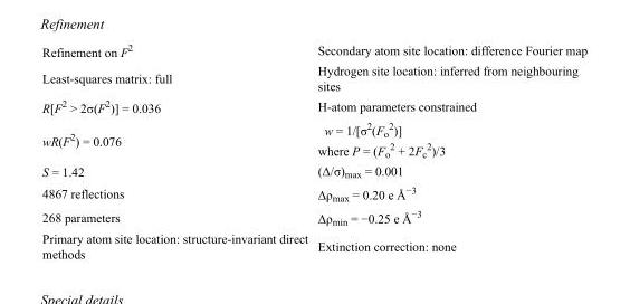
<table><tbody><tr><td>Refinement on F<sup>2</sup></td><td>Secondary atom site location: difference Fourier map</td></tr><tr><td>Least-squares matrix: full</td><td>Hydrogen site location: inferred from neighbouring sites</td></tr><tr><td>R[F<sup>2</sup> &gt; 2σ(F<sup>2</sup>)] = 0.036</td><td>H-atom parameters constrained</td></tr><tr><td>wR(F<sup>2</sup>) = 0.076</td><td>w = 1/[σ<sup>2</sup>(F<sub>o</sub> <sup>2</sup>)] where P = (F<sub>o</sub> <sup>2</sup> + 2F<sub>c</sub> <sup>2</sup>)/3</td></tr><tr><td>S = 1.42</td><td>(Δ/σ)<sub>max</sub> = 0.001</td></tr><tr><td>4867 reflections</td><td>Δρ<sub>max</sub> = 0.20 e Å<sup>−3</sup></td></tr><tr><td>268 parameters</td><td>Δρ<sub>min</sub> = −0.25 e Å<sup>−3</sup></td></tr><tr><td>Primary atom site location: structure-invariant direct methods</td><td>Extinction correction: none</td></tr></tbody></table>